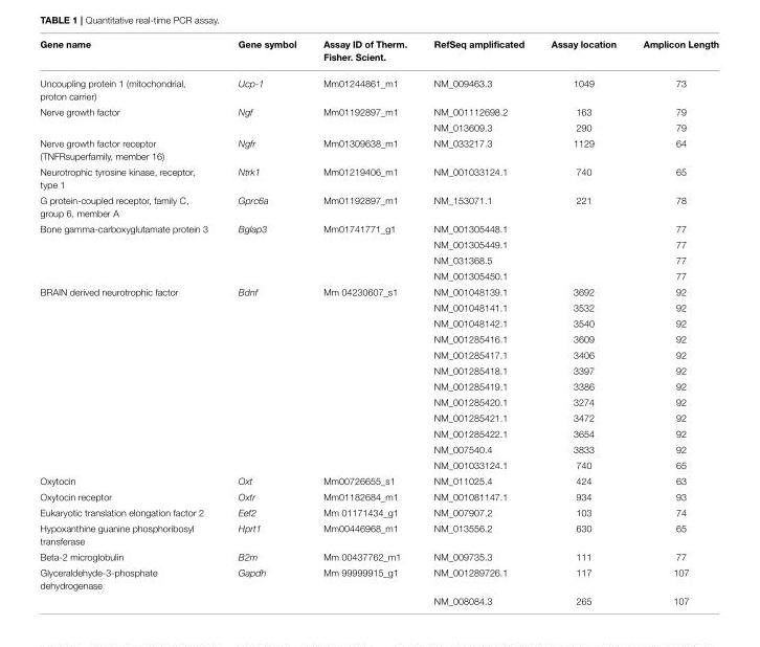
<table><thead><tr><td>Gene name</td><td>Gene symbol</td><td>Assay ID of Therm. Fisher. Scient.</td><td>RefSeq amplificated</td><td>Assay location</td><td>Amplicon Length</td></tr></thead><tbody><tr><td>Uncoupling protein 1 (mitochondrial, proton carrier)</td><td>Ucp-1</td><td>Mm01244861_m1</td><td>NM_009463.3</td><td>1049</td><td>73</td></tr><tr><td rowspan="2">Nerve growth factor</td><td>Ngf</td><td>Mm01192897_m1</td><td>NM_001112698.2</td><td>163</td><td>79</td></tr><tr><td></td><td></td><td>NM_013609.3</td><td>290</td><td>79</td></tr><tr><td>Nerve growth factor receptor (TNFRsuperfamily, member 16)</td><td>Ngfr</td><td>Mm01309638_m1</td><td>NM_033217.3</td><td>1129</td><td>64</td></tr><tr><td>Neurotrophic tyrosine kinase, receptor, type 1</td><td>Ntrk1</td><td>Mm01219406_m1</td><td>NM_001033124.1</td><td>740</td><td>65</td></tr><tr><td>G protein-coupled receptor, family C, group 6, member A</td><td>Gprc6a</td><td>Mm01192897_m1</td><td>NM_153071.1</td><td>221</td><td>78</td></tr><tr><td rowspan="4">Bone gamma-carboxyglutamate protein 3</td><td>Bglap3</td><td>Mm01741771_g1</td><td>NM_001305448.1</td><td></td><td>77</td></tr><tr><td></td><td></td><td>NM_001305449.1</td><td></td><td>77</td></tr><tr><td></td><td></td><td>NM_031368.5</td><td></td><td>77</td></tr><tr><td></td><td></td><td>NM_001305450.1</td><td></td><td>77</td></tr><tr><td rowspan="12">BRAIN derived neurotrophic factor</td><td>Bdnf</td><td>Mm 04230607_s1</td><td>NM_001048139.1</td><td>3692</td><td>92</td></tr><tr><td></td><td></td><td>NM_001048141.1</td><td>3532</td><td>92</td></tr><tr><td></td><td></td><td>NM_001048142.1</td><td>3540</td><td>92</td></tr><tr><td></td><td></td><td>NM_001285416.1</td><td>3609</td><td>92</td></tr><tr><td></td><td></td><td>NM_001285417.1</td><td>3406</td><td>92</td></tr><tr><td></td><td></td><td>NM_001285418.1</td><td>3397</td><td>92</td></tr><tr><td></td><td></td><td>NM_001285419.1</td><td>3386</td><td>92</td></tr><tr><td></td><td></td><td>NM_001285420.1</td><td>3274</td><td>92</td></tr><tr><td></td><td></td><td>NM_001285421.1</td><td>3472</td><td>92</td></tr><tr><td></td><td></td><td>NM_001285422.1</td><td>3654</td><td>92</td></tr><tr><td></td><td></td><td>NM_007540.4</td><td>3833</td><td>92</td></tr><tr><td></td><td></td><td>NM_001033124.1</td><td>740</td><td>65</td></tr><tr><td>Oxytocin</td><td>Oxt</td><td>Mm00726655_s1</td><td>NM_011025.4</td><td>424</td><td>63</td></tr><tr><td>Oxytocin receptor</td><td>Oxtr</td><td>Mm01182684_m1</td><td>NM_001081147.1</td><td>934</td><td>93</td></tr><tr><td>Eukaryotic translation elongation factor 2</td><td>Eef2</td><td>Mm 01171434_g1</td><td>NM_007907.2</td><td>103</td><td>74</td></tr><tr><td>Hypoxanthine guanine phosphoribosyl transferase</td><td>Hprt1</td><td>Mm00446968_m1</td><td>NM_013556.2</td><td>630</td><td>65</td></tr><tr><td>Beta-2 microglobulin</td><td>B2m</td><td>Mm 00437762_m1</td><td>NM_009735.3</td><td>111</td><td>77</td></tr><tr><td rowspan="2">Glyceraldehyde-3-phosphate dehydrogenase</td><td>Gapdh</td><td>Mm 99999915_g1</td><td>NM_001289726.1</td><td>117</td><td>107</td></tr><tr><td></td><td></td><td>NM_008084.3</td><td>265</td><td>107</td></tr></tbody></table>